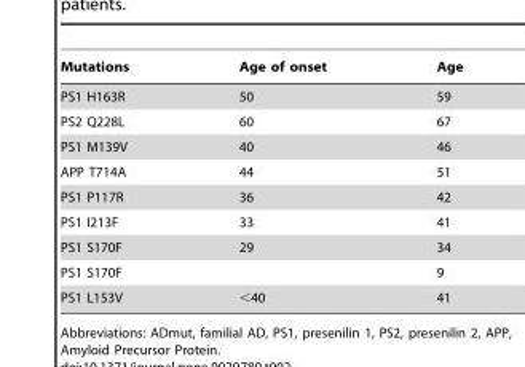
<table><thead><tr><td>Mutations</td><td>Age of onset</td><td>Age</td></tr></thead><tbody><tr><td>PS1 H163R</td><td>50</td><td>59</td></tr><tr><td>PS2 Q228L</td><td>60</td><td>67</td></tr><tr><td>PS1 M139V</td><td>40</td><td>46</td></tr><tr><td>APP T714A</td><td>44</td><td>51</td></tr><tr><td>PS1 P117R</td><td>36</td><td>42</td></tr><tr><td>PS1 I213F</td><td>33</td><td>41</td></tr><tr><td>PS1 S170F</td><td>29</td><td>34</td></tr><tr><td>PS1 S170F</td><td></td><td>9</td></tr><tr><td>PS1 L153V</td><td>&lt;40</td><td>41</td></tr></tbody></table>